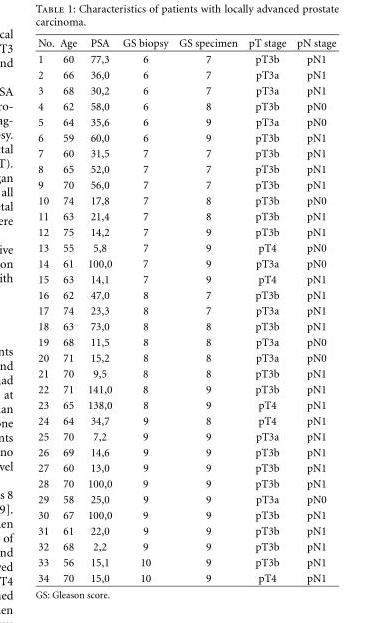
<table><thead><tr><td>No.</td><td>Age</td><td>PSA</td><td>GS biopsy</td><td>GS specimen</td><td>pT stage</td><td>pN stage</td></tr></thead><tbody><tr><td>1</td><td>60</td><td>77,3</td><td>6</td><td>7</td><td>pT3b</td><td>pN1</td></tr><tr><td>2</td><td>66</td><td>36,0</td><td>6</td><td>7</td><td>pT3a</td><td>pN1</td></tr><tr><td>3</td><td>68</td><td>30,2</td><td>6</td><td>7</td><td>pT3a</td><td>pN1</td></tr><tr><td>4</td><td>62</td><td>58,0</td><td>6</td><td>8</td><td>pT3b</td><td>pN0</td></tr><tr><td>5</td><td>64</td><td>35,6</td><td>6</td><td>9</td><td>pT3a</td><td>pN0</td></tr><tr><td>6</td><td>59</td><td>60,0</td><td>6</td><td>9</td><td>pT3b</td><td>pN1</td></tr><tr><td>7</td><td>60</td><td>31,5</td><td>7</td><td>7</td><td>pT3b</td><td>pN1</td></tr><tr><td>8</td><td>65</td><td>52,0</td><td>7</td><td>7</td><td>pT3b</td><td>pN1</td></tr><tr><td>9</td><td>70</td><td>56,0</td><td>7</td><td>7</td><td>pT3b</td><td>pN1</td></tr><tr><td>10</td><td>74</td><td>17,8</td><td>7</td><td>8</td><td>pT3b</td><td>pN0</td></tr><tr><td>11</td><td>63</td><td>21,4</td><td>7</td><td>8</td><td>pT3b</td><td>pN1</td></tr><tr><td>12</td><td>75</td><td>14,2</td><td>7</td><td>9</td><td>pT3b</td><td>pN1</td></tr><tr><td>13</td><td>55</td><td>5,8</td><td>7</td><td>9</td><td>pT4</td><td>pN0</td></tr><tr><td>14</td><td>61</td><td>100,0</td><td>7</td><td>9</td><td>pT3a</td><td>pN0</td></tr><tr><td>15</td><td>63</td><td>14,1</td><td>7</td><td>9</td><td>pT4</td><td>pN1</td></tr><tr><td>16</td><td>62</td><td>47,0</td><td>8</td><td>7</td><td>pT3b</td><td>pN1</td></tr><tr><td>17</td><td>74</td><td>23,3</td><td>8</td><td>7</td><td>pT3a</td><td>pN1</td></tr><tr><td>18</td><td>63</td><td>73,0</td><td>8</td><td>8</td><td>pT3b</td><td>pN1</td></tr><tr><td>19</td><td>68</td><td>11,5</td><td>8</td><td>8</td><td>pT3a</td><td>pN0</td></tr><tr><td>20</td><td>71</td><td>15,2</td><td>8</td><td>8</td><td>pT3a</td><td>pN0</td></tr><tr><td>21</td><td>70</td><td>9,5</td><td>8</td><td>8</td><td>pT3b</td><td>pN1</td></tr><tr><td>22</td><td>71</td><td>141,0</td><td>8</td><td>9</td><td>pT3b</td><td>pN1</td></tr><tr><td>23</td><td>65</td><td>138,0</td><td>8</td><td>9</td><td>pT4</td><td>pN1</td></tr><tr><td>24</td><td>64</td><td>34,7</td><td>9</td><td>8</td><td>pT4</td><td>pN1</td></tr><tr><td>25</td><td>70</td><td>7,2</td><td>9</td><td>9</td><td>pT3a</td><td>pN1</td></tr><tr><td>26</td><td>69</td><td>14,6</td><td>9</td><td>9</td><td>pT3b</td><td>pN1</td></tr><tr><td>27</td><td>60</td><td>13,0</td><td>9</td><td>9</td><td>pT3b</td><td>pN1</td></tr><tr><td>28</td><td>70</td><td>100,0</td><td>9</td><td>9</td><td>pT3b</td><td>pN1</td></tr><tr><td>29</td><td>58</td><td>25,0</td><td>9</td><td>9</td><td>pT3a</td><td>pN0</td></tr><tr><td>30</td><td>67</td><td>100,0</td><td>9</td><td>9</td><td>pT3b</td><td>pN1</td></tr><tr><td>31</td><td>61</td><td>22,0</td><td>9</td><td>9</td><td>pT3b</td><td>pN1</td></tr><tr><td>32</td><td>68</td><td>2,2</td><td>9</td><td>9</td><td>pT3b</td><td>pN1</td></tr><tr><td>33</td><td>56</td><td>15,1</td><td>10</td><td>9</td><td>pT3b</td><td>pN1</td></tr><tr><td>34</td><td>70</td><td>15,0</td><td>10</td><td>9</td><td>pT4</td><td>pN1</td></tr></tbody></table>